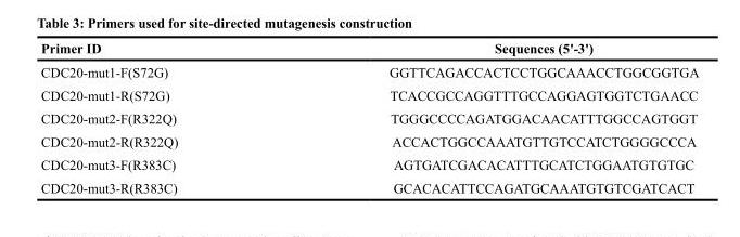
<table><thead><tr><td>Primer ID</td><td>Sequences (5&#x27;-3&#x27;)</td></tr></thead><tbody><tr><td>CDC20-mut1-F(S72G)</td><td>GGTTCAGACCACTCCTGGCAAACCTGGCGGTGA</td></tr><tr><td>CDC20-mut1-R(S72G)</td><td>TCACCGCCAGGTTTGCCAGGAGTGGTCTGAACC</td></tr><tr><td>CDC20-mut2-F(R322Q)</td><td>TGGGCCCCAGATGGACAACATTTGGCCAGTGGT</td></tr><tr><td>CDC20-mut2-R(R322Q)</td><td>ACCACTGGCCAAATGTTGTCCATCTGGGGCCCA</td></tr><tr><td>CDC20-mut3-F(R383C)</td><td>AGTGATCGACACATTTGCATCTGGAATGTGTGC</td></tr><tr><td>CDC20-mut3-R(R383C)</td><td>GCACACATTCCAGATGCAAATGTGTCGATCACT</td></tr></tbody></table>